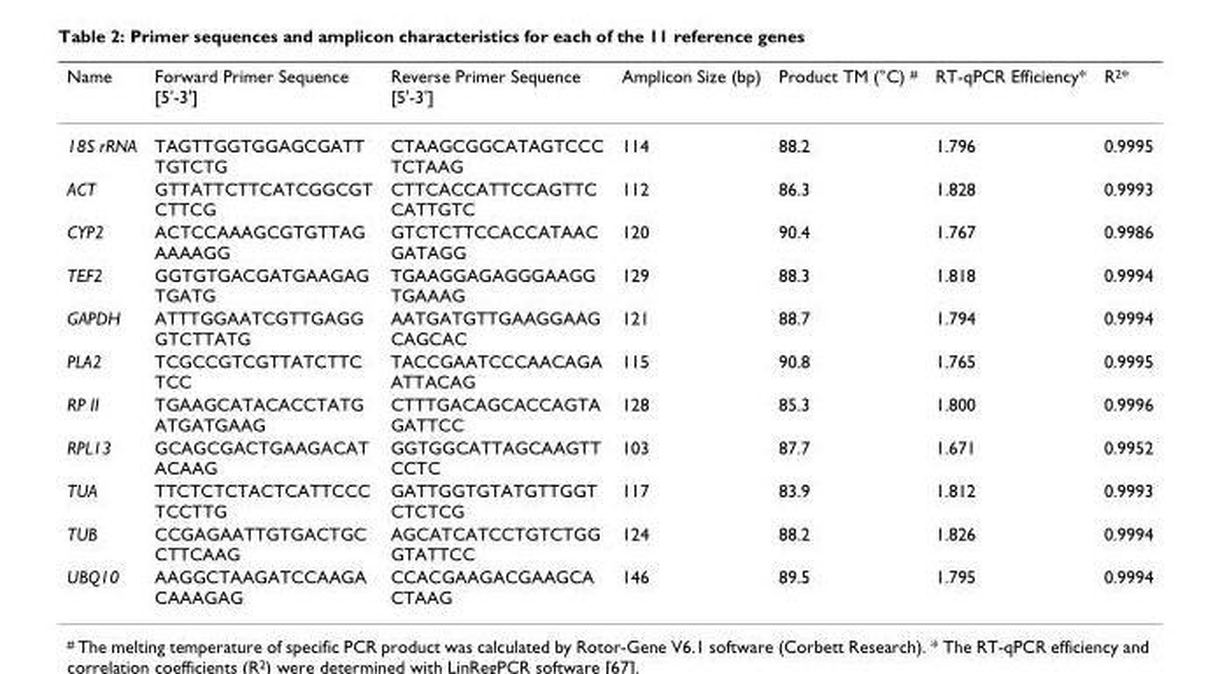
<table><thead><tr><td>Name</td><td>Forward Primer Sequence [5&#x27;-3&#x27;]</td><td>Reverse Primer Sequence [5&#x27;-3&#x27;]</td><td>Amplicon Size (bp)</td><td>Product TM (°C) <sup>#</sup></td><td>RT-qPCR Efficiency*</td><td>R<sup>2</sup>*</td></tr></thead><tbody><tr><td>18S rRNA</td><td>TAGTTGGTGGAGCGATT TGTCTG</td><td>CTAAGCGGCATAGTCCC TCTAAG</td><td>114</td><td>88.2</td><td>1.796</td><td>0.9995</td></tr><tr><td>ACT</td><td>GTTATTCTTCATCGGCGT CTTCG</td><td>CTTCACCATTCCAGTTC CATTGTC</td><td>112</td><td>86.3</td><td>1.828</td><td>0.9993</td></tr><tr><td>CYP2</td><td>ACTCCAAAGCGTGTTAG AAAAGG</td><td>GTCTCTTCCACCATAAC GATAGG</td><td>120</td><td>90.4</td><td>1.767</td><td>0.9986</td></tr><tr><td>TEF2</td><td>GGTGTGACGATGAAGAG TGATG</td><td>TGAAGGAGAGGGAAGG TGAAAG</td><td>129</td><td>88.3</td><td>1.818</td><td>0.9994</td></tr><tr><td>GAPDH</td><td>ATTTGGAATCGTTGAGG GTCTTATG</td><td>AATGATGTTGAAGGAAG CAGCAC</td><td>121</td><td>88.7</td><td>1.794</td><td>0.9994</td></tr><tr><td>PLA2</td><td>TCGCCGTCGTTATCTTC TCC</td><td>TACCGAATCCCAACAGA ATTACAG</td><td>115</td><td>90.8</td><td>1.765</td><td>0.9995</td></tr><tr><td>RP II</td><td>TGAAGCATACACCTATG ATGATGAAG</td><td>CTTTGACAGCACCAGTA GATTCC</td><td>128</td><td>85.3</td><td>1.800</td><td>0.9996</td></tr><tr><td>RPL13</td><td>GCAGCGACTGAAGACAT ACAAG</td><td>GGTGGCATTAGCAAGTT CCTC</td><td>103</td><td>87.7</td><td>1.671</td><td>0.9952</td></tr><tr><td>TUA</td><td>TTCTCTCTACTCATTCCC TCCTTG</td><td>GATTGGTGTATGTTGGT CTCTCG</td><td>117</td><td>83.9</td><td>1.812</td><td>0.9993</td></tr><tr><td>TUB</td><td>CCGAGAATTGTGACTGC CTTCAAG</td><td>AGCATCATCCTGTCTGG GTATTCC</td><td>124</td><td>88.2</td><td>1.826</td><td>0.9994</td></tr><tr><td>UBQ10</td><td>AAGGCTAAGATCCAAGA CAAAGAG</td><td>CCACGAAGACGAAGCA CTAAG</td><td>146</td><td>89.5</td><td>1.795</td><td>0.9994</td></tr></tbody></table>